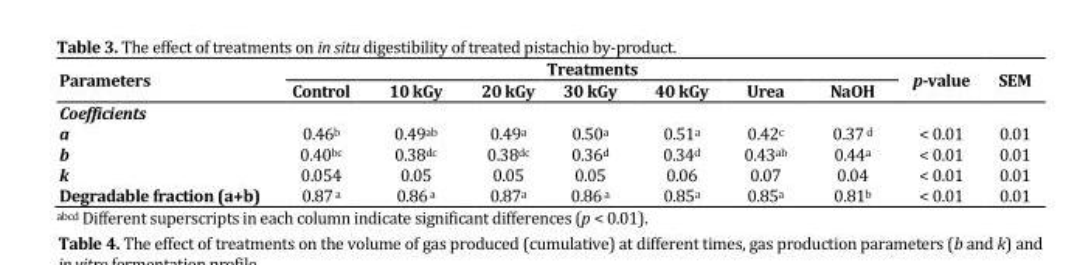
<table><thead><tr><td rowspan="2">Parameters</td><td colspan="7">Treatments</td><td rowspan="2">p-value</td><td rowspan="2">SEM</td></tr><tr><td>Control</td><td>10 kGy</td><td>20 kGy</td><td>30 kGy</td><td>40 kGy</td><td>Urea</td><td>NaOH</td></tr></thead><tbody><tr><td colspan="10">Coefficients</td></tr><tr><td>a</td><td>0.46<sup>b</sup></td><td>0.49<sup>ab</sup></td><td>0.49<sup>a</sup></td><td>0.50<sup>a</sup></td><td>0.51<sup>a</sup></td><td>0.42<sup>c</sup></td><td>0.37 d</td><td>&lt; 0.01</td><td>0.01</td></tr><tr><td>b</td><td>0.40<sup>bc</sup></td><td>0.38<sup>dc</sup></td><td>0.38<sup>dc</sup></td><td>0.36<sup>d</sup></td><td>0.34<sup>d</sup></td><td>0.43<sup>ab</sup></td><td>0.44<sup>a</sup></td><td>&lt; 0.01</td><td>0.01</td></tr><tr><td>k</td><td>0.054</td><td>0.05</td><td>0.05</td><td>0.05</td><td>0.06</td><td>0.07</td><td>0.04</td><td>&lt; 0.01</td><td>0.01</td></tr><tr><td>Degradable fraction (a+b)</td><td>0.87 a</td><td>0.86 a</td><td>0.87<sup>a</sup></td><td>0.86 a</td><td>0.85<sup>a</sup></td><td>0.85<sup>a</sup></td><td>0.81<sup>b</sup></td><td>&lt; 0.01</td><td>0.01</td></tr></tbody></table>